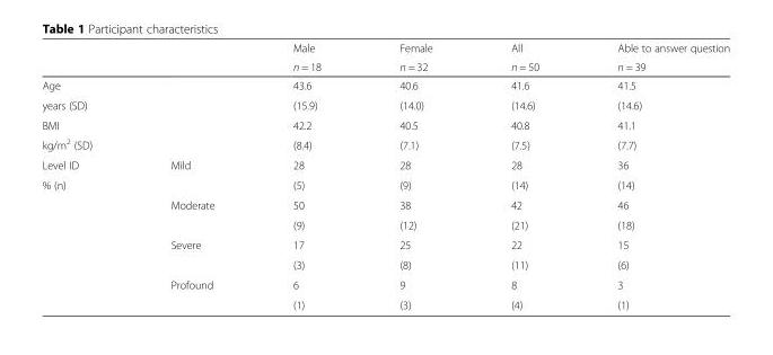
<table><thead><tr><td rowspan="2"></td><td rowspan="2"></td><td rowspan="2">Male n = 18</td><td rowspan="2">Female n = 32</td><td rowspan="2">All n = 50</td><td rowspan="2">Able to answer question n = 39</td></tr><tr></tr></thead><tbody><tr><td>Age</td><td rowspan="2"></td><td>43.6</td><td>40.6</td><td>41.6</td><td>41.5</td></tr><tr><td>years (SD)</td><td>(15.9)</td><td>(14.0)</td><td>(14.6)</td><td>(14.6)</td></tr><tr><td>BMI</td><td rowspan="2"></td><td>42.2</td><td>40.5</td><td>40.8</td><td>41.1</td></tr><tr><td>kg/m<sup>2</sup> (SD)</td><td>(8.4)</td><td>(7.1)</td><td>(7.5)</td><td>(7.7)</td></tr><tr><td>Level ID</td><td rowspan="2">Mild</td><td>28</td><td>28</td><td>28</td><td>36</td></tr><tr><td rowspan="7">% (n)</td><td>(5)</td><td>(9)</td><td>(14)</td><td>(14)</td></tr><tr><td rowspan="2">Moderate</td><td>50</td><td>38</td><td>42</td><td>46</td></tr><tr><td>(9)</td><td>(12)</td><td>(21)</td><td>(18)</td></tr><tr><td rowspan="2">Severe</td><td>17</td><td>25</td><td>22</td><td>15</td></tr><tr><td>(3)</td><td>(8)</td><td>(11)</td><td>(6)</td></tr><tr><td rowspan="2">Profound</td><td>6</td><td>9</td><td>8</td><td>3</td></tr><tr><td>(1)</td><td>(3)</td><td>(4)</td><td>(1)</td></tr></tbody></table>